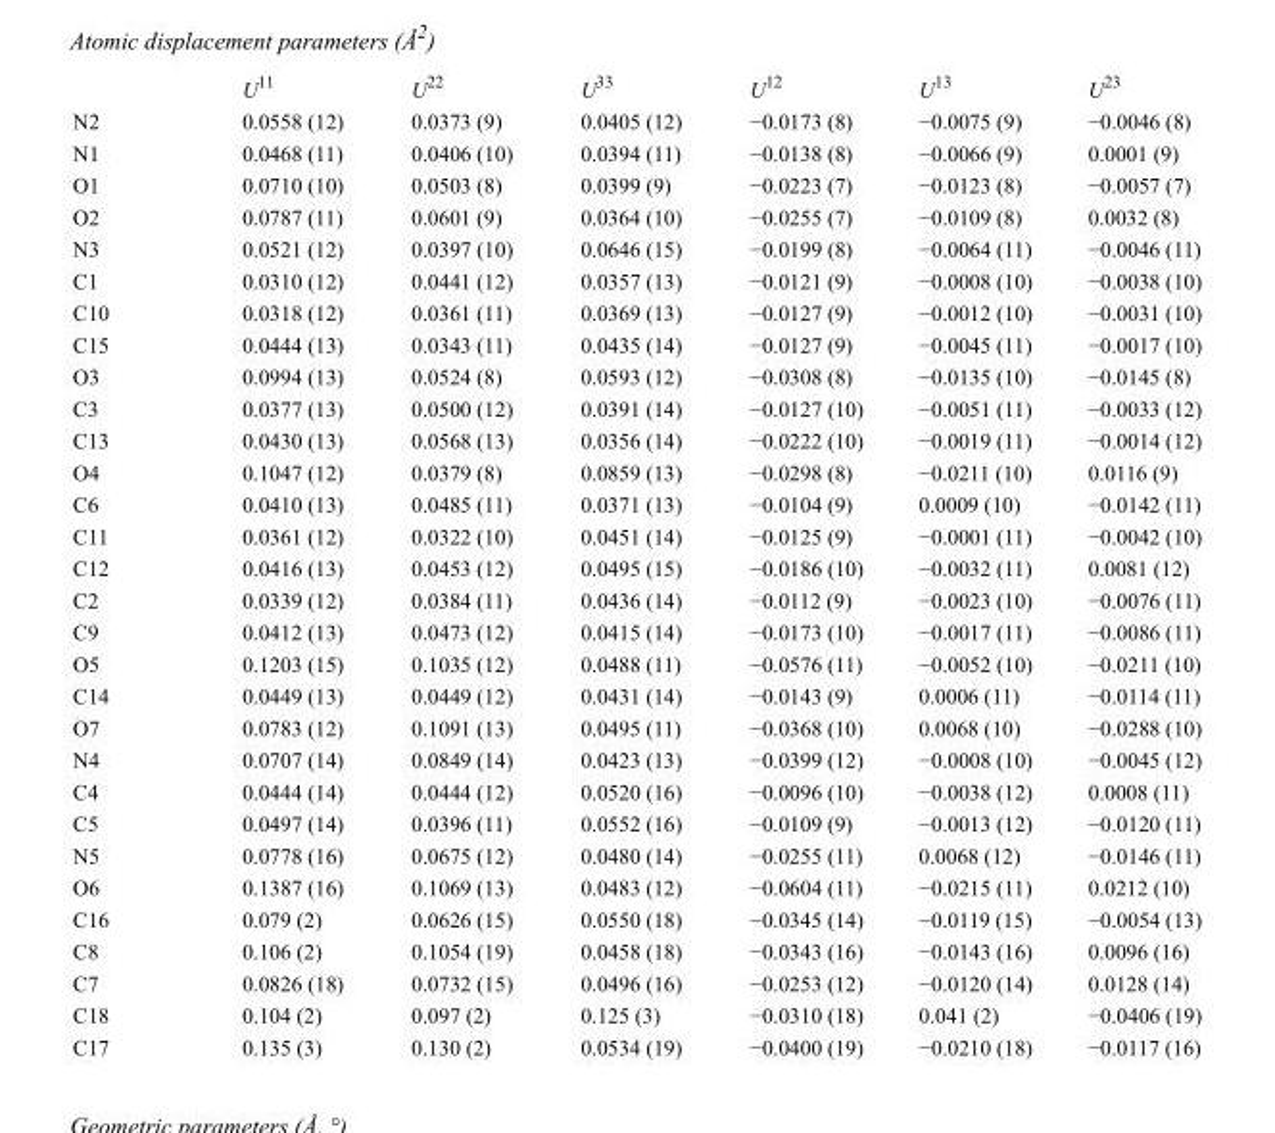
<table><thead><tr><td></td><td>U<sup>11</sup></td><td>U<sup>22</sup></td><td>U<sup>33</sup></td><td>U<sup>12</sup></td><td>U<sup>13</sup></td><td>U<sup>23</sup></td></tr></thead><tbody><tr><td>N2</td><td>0.0558 (12)</td><td>0.0373 (9)</td><td>0.0405 (12)</td><td>−0.0173 (8)</td><td>−0.0075 (9)</td><td>−0.0046 (8)</td></tr><tr><td>N1</td><td>0.0468 (11)</td><td>0.0406 (10)</td><td>0.0394 (11)</td><td>−0.0138 (8)</td><td>−0.0066 (9)</td><td>0.0001 (9)</td></tr><tr><td>O1</td><td>0.0710 (10)</td><td>0.0503 (8)</td><td>0.0399 (9)</td><td>−0.0223 (7)</td><td>−0.0123 (8)</td><td>−0.0057 (7)</td></tr><tr><td>O2</td><td>0.0787 (11)</td><td>0.0601 (9)</td><td>0.0364 (10)</td><td>−0.0255 (7)</td><td>−0.0109 (8)</td><td>0.0032 (8)</td></tr><tr><td>N3</td><td>0.0521 (12)</td><td>0.0397 (10)</td><td>0.0646 (15)</td><td>−0.0199 (8)</td><td>−0.0064 (11)</td><td>−0.0046 (11)</td></tr><tr><td>C1</td><td>0.0310 (12)</td><td>0.0441 (12)</td><td>0.0357 (13)</td><td>−0.0121 (9)</td><td>−0.0008 (10)</td><td>−0.0038 (10)</td></tr><tr><td>C10</td><td>0.0318 (12)</td><td>0.0361 (11)</td><td>0.0369 (13)</td><td>−0.0127 (9)</td><td>−0.0012 (10)</td><td>−0.0031 (10)</td></tr><tr><td>C15</td><td>0.0444 (13)</td><td>0.0343 (11)</td><td>0.0435 (14)</td><td>−0.0127 (9)</td><td>−0.0045 (11)</td><td>−0.0017 (10)</td></tr><tr><td>O3</td><td>0.0994 (13)</td><td>0.0524 (8)</td><td>0.0593 (12)</td><td>−0.0308 (8)</td><td>−0.0135 (10)</td><td>−0.0145 (8)</td></tr><tr><td>C3</td><td>0.0377 (13)</td><td>0.0500 (12)</td><td>0.0391 (14)</td><td>−0.0127 (10)</td><td>−0.0051 (11)</td><td>−0.0033 (12)</td></tr><tr><td>C13</td><td>0.0430 (13)</td><td>0.0568 (13)</td><td>0.0356 (14)</td><td>−0.0222 (10)</td><td>−0.0019 (11)</td><td>−0.0014 (12)</td></tr><tr><td>O4</td><td>0.1047 (12)</td><td>0.0379 (8)</td><td>0.0859 (13)</td><td>−0.0298 (8)</td><td>−0.0211 (10)</td><td>0.0116 (9)</td></tr><tr><td>C6</td><td>0.0410 (13)</td><td>0.0485 (11)</td><td>0.0371 (13)</td><td>−0.0104 (9)</td><td>0.0009 (10)</td><td>−0.0142 (11)</td></tr><tr><td>C11</td><td>0.0361 (12)</td><td>0.0322 (10)</td><td>0.0451 (14)</td><td>−0.0125 (9)</td><td>−0.0001 (11)</td><td>−0.0042 (10)</td></tr><tr><td>C12</td><td>0.0416 (13)</td><td>0.0453 (12)</td><td>0.0495 (15)</td><td>−0.0186 (10)</td><td>−0.0032 (11)</td><td>0.0081 (12)</td></tr><tr><td>C2</td><td>0.0339 (12)</td><td>0.0384 (11)</td><td>0.0436 (14)</td><td>−0.0112 (9)</td><td>−0.0023 (10)</td><td>−0.0076 (11)</td></tr><tr><td>C9</td><td>0.0412 (13)</td><td>0.0473 (12)</td><td>0.0415 (14)</td><td>−0.0173 (10)</td><td>−0.0017 (11)</td><td>−0.0086 (11)</td></tr><tr><td>O5</td><td>0.1203 (15)</td><td>0.1035 (12)</td><td>0.0488 (11)</td><td>−0.0576 (11)</td><td>−0.0052 (10)</td><td>−0.0211 (10)</td></tr><tr><td>C14</td><td>0.0449 (13)</td><td>0.0449 (12)</td><td>0.0431 (14)</td><td>−0.0143 (9)</td><td>0.0006 (11)</td><td>−0.0114 (11)</td></tr><tr><td>O7</td><td>0.0783 (12)</td><td>0.1091 (13)</td><td>0.0495 (11)</td><td>−0.0368 (10)</td><td>0.0068 (10)</td><td>−0.0288 (10)</td></tr><tr><td>N4</td><td>0.0707 (14)</td><td>0.0849 (14)</td><td>0.0423 (13)</td><td>−0.0399 (12)</td><td>−0.0008 (10)</td><td>−0.0045 (12)</td></tr><tr><td>C4</td><td>0.0444 (14)</td><td>0.0444 (12)</td><td>0.0520 (16)</td><td>−0.0096 (10)</td><td>−0.0038 (12)</td><td>0.0008 (11)</td></tr><tr><td>C5</td><td>0.0497 (14)</td><td>0.0396 (11)</td><td>0.0552 (16)</td><td>−0.0109 (9)</td><td>−0.0013 (12)</td><td>−0.0120 (11)</td></tr><tr><td>N5</td><td>0.0778 (16)</td><td>0.0675 (12)</td><td>0.0480 (14)</td><td>−0.0255 (11)</td><td>0.0068 (12)</td><td>−0.0146 (11)</td></tr><tr><td>O6</td><td>0.1387 (16)</td><td>0.1069 (13)</td><td>0.0483 (12)</td><td>−0.0604 (11)</td><td>−0.0215 (11)</td><td>0.0212 (10)</td></tr><tr><td>C16</td><td>0.079 (2)</td><td>0.0626 (15)</td><td>0.0550 (18)</td><td>−0.0345 (14)</td><td>−0.0119 (15)</td><td>−0.0054 (13)</td></tr><tr><td>C8</td><td>0.106 (2)</td><td>0.1054 (19)</td><td>0.0458 (18)</td><td>−0.0343 (16)</td><td>−0.0143 (16)</td><td>0.0096 (16)</td></tr><tr><td>C7</td><td>0.0826 (18)</td><td>0.0732 (15)</td><td>0.0496 (16)</td><td>−0.0253 (12)</td><td>−0.0120 (14)</td><td>0.0128 (14)</td></tr><tr><td>C18</td><td>0.104 (2)</td><td>0.097 (2)</td><td>0.125 (3)</td><td>−0.0310 (18)</td><td>0.041 (2)</td><td>−0.0406 (19)</td></tr><tr><td>C17</td><td>0.135 (3)</td><td>0.130 (2)</td><td>0.0534 (19)</td><td>−0.0400 (19)</td><td>−0.0210 (18)</td><td>−0.0117 (16)</td></tr></tbody></table>